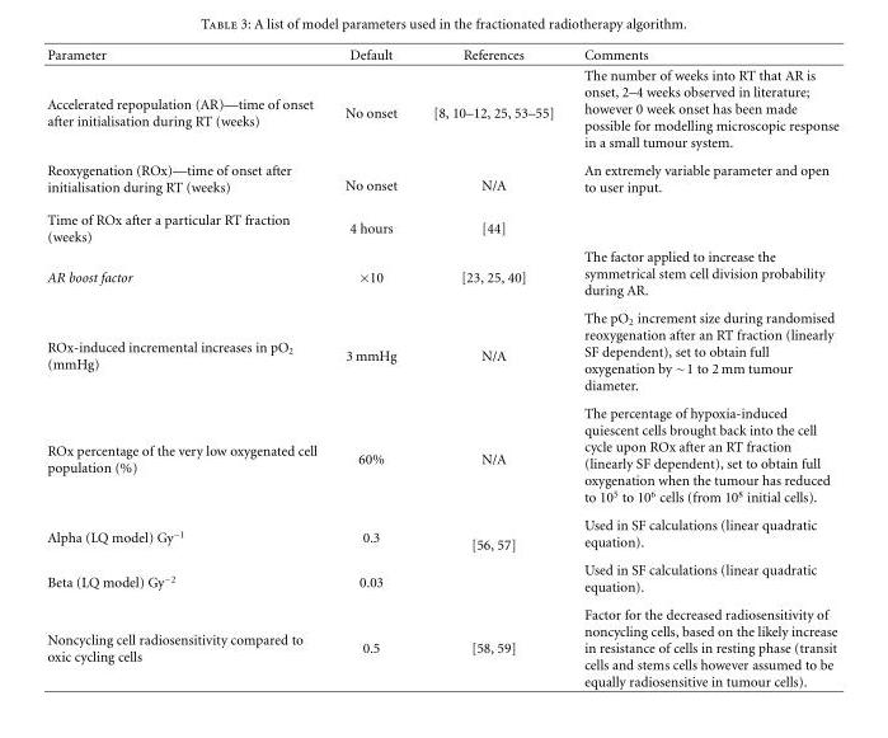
<table><thead><tr><td>Parameter</td><td>Default</td><td>References</td><td>Comments</td></tr></thead><tbody><tr><td>Accelerated repopulation (AR)—time of onset after initialisation during RT (weeks)</td><td>No onset</td><td>[8, 10–12, 25, 53–55]</td><td>The number of weeks into RT that AR is onset, 2–4 weeks observed in literature; however 0 week onset has been made possible for modelling microscopic response in a small tumour system.</td></tr><tr><td>Reoxygenation (ROx)—time of onset after initialisation during RT (weeks)</td><td>No onset</td><td>N/A</td><td>An extremely variable parameter and open to user input.</td></tr><tr><td>Time of ROx after a particular RT fraction (weeks)</td><td>4 hours</td><td>[44]</td><td></td></tr><tr><td>AR boost factor</td><td>×10</td><td>[23, 25, 40]</td><td>The factor applied to increase the symmetrical stem cell division probability during AR.</td></tr><tr><td>ROx-induced incremental increases in pO<sub>2</sub> (mmHg)</td><td>3 mmHg</td><td>N/A</td><td>The pO2 increment size during randomised reoxygenation after an RT fraction (linearly SF dependent), set to obtain full oxygenation by ∼1 to 2 mm tumour diameter.</td></tr><tr><td>ROx percentage of the very low oxygenated cell population (%)</td><td>60%</td><td>N/A</td><td>The percentage of hypoxia-induced quiescent cells brought back into the cell cycle upon ROx after an RT fraction (linearly SF dependent), set to obtain full oxygenation when the tumour has reduced to 10<sup>5</sup> to 10<sup>6</sup> cells (from 10<sup>8</sup> initial cells).</td></tr><tr><td>Alpha (LQ model) Gy<sup>−1</sup></td><td>0.3</td><td>[56, 57]</td><td>Used in SF calculations (linear quadratic equation).</td></tr><tr><td>Beta (LQ model) Gy<sup>−2</sup></td><td>0.03</td><td></td><td>Used in SF calculations (linear quadratic equation).</td></tr><tr><td>Noncycling cell radiosensitivity compared to oxic cycling cells</td><td>0.5</td><td>[58, 59]</td><td>Factor for the decreased radiosensitivity of noncycling cells, based on the likely increase in resistance of cells in resting phase (transit cells and stems cells however assumed to be equally radiosensitive in tumour cells).</td></tr></tbody></table>